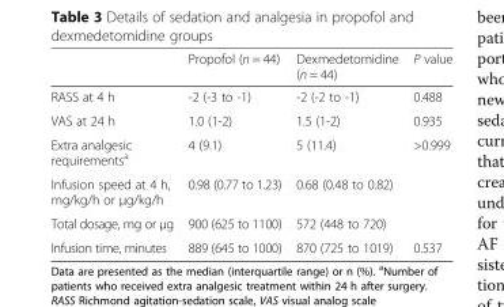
<table><thead><tr><td></td><td>Propofol (n = 44)</td><td>Dexmedetomidine (n = 44)</td><td>P value</td></tr></thead><tbody><tr><td>RASS at 4 h</td><td>-2 (-3 to -1)</td><td>-2 (-2 to -1)</td><td>0.488</td></tr><tr><td>VAS at 24 h</td><td>1.0 (1-2)</td><td>1.5 (1-2)</td><td>0.935</td></tr><tr><td>Extra analgesic requirements<sup>a</sup></td><td>4 (9.1)</td><td>5 (11.4)</td><td>&gt;0.999</td></tr><tr><td>Infusion speed at 4 h, mg/kg/h or μg/kg/h</td><td>0.98 (0.77 to 1.23)</td><td>0.68 (0.48 to 0.82)</td><td></td></tr><tr><td>Total dosage, mg or μg</td><td>900 (625 to 1100)</td><td>572 (448 to 720)</td><td></td></tr><tr><td>Infusion time, minutes</td><td>889 (645 to 1000)</td><td>870 (725 to 1019)</td><td>0.537</td></tr></tbody></table>